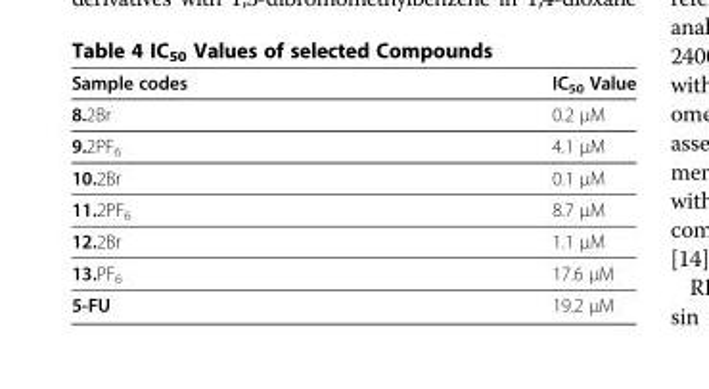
<table><thead><tr><td>Sample codes</td><td>IC<sub>50</sub> Value</td></tr></thead><tbody><tr><td>8.2Br</td><td>0.2 μM</td></tr><tr><td>9.2PF<sub>6</sub></td><td>4.1 μM</td></tr><tr><td>10.2Br</td><td>0.1 μM</td></tr><tr><td>11.2PF<sub>6</sub></td><td>8.7 μM</td></tr><tr><td>12.2Br</td><td>1.1 μM</td></tr><tr><td>13.PF<sub>6</sub></td><td>17.6 μM</td></tr><tr><td>5-FU</td><td>19.2 μM</td></tr></tbody></table>